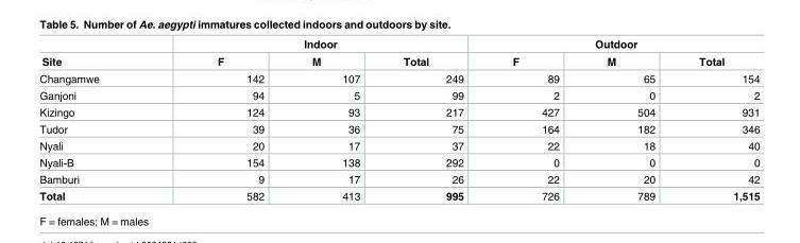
<table><thead><tr><td rowspan="2">Site</td><td colspan="3">Indoor</td><td colspan="3">Outdoor</td></tr><tr><td>F</td><td>M</td><td>Total</td><td>F</td><td>M</td><td>Total</td></tr></thead><tbody><tr><td>Changamwe</td><td>142</td><td>107</td><td>249</td><td>89</td><td>65</td><td>154</td></tr><tr><td>Ganjoni</td><td>94</td><td>5</td><td>99</td><td>2</td><td>0</td><td>2</td></tr><tr><td>Kizingo</td><td>124</td><td>93</td><td>217</td><td>427</td><td>504</td><td>931</td></tr><tr><td>Tudor</td><td>39</td><td>36</td><td>75</td><td>164</td><td>182</td><td>346</td></tr><tr><td>Nyali</td><td>20</td><td>17</td><td>37</td><td>22</td><td>18</td><td>40</td></tr><tr><td>Nyali-B</td><td>154</td><td>138</td><td>292</td><td>0</td><td>0</td><td>0</td></tr><tr><td>Bamburi</td><td>9</td><td>17</td><td>26</td><td>22</td><td>20</td><td>42</td></tr><tr><td>Total</td><td>582</td><td>413</td><td>995</td><td>726</td><td>789</td><td>1,515</td></tr></tbody></table>